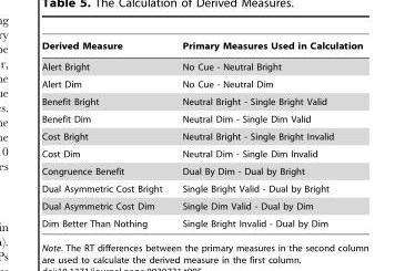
<table><thead><tr><td>Derived Measure</td><td>Primary Measures Used in Calculation</td></tr></thead><tbody><tr><td>Alert Bright</td><td>No Cue - Neutral Bright</td></tr><tr><td>Alert Dim</td><td>No Cue - Neutral Dim</td></tr><tr><td>Benefit Bright</td><td>Neutral Bright - Single Bright Valid</td></tr><tr><td>Benefit Dim</td><td>Neutral Dim - Single Dim Valid</td></tr><tr><td>Cost Bright</td><td>Neutral Bright - Single Bright Invalid</td></tr><tr><td>Cost Dim</td><td>Neutral Dim - Single Dim Invalid</td></tr><tr><td>Congruence Benefit</td><td>Dual By Dim - Dual by Bright</td></tr><tr><td>Dual Asymmetric Cost Bright</td><td>Single Bright Valid - Dual by Bright</td></tr><tr><td>Dual Asymmetric Cost Dim</td><td>Single Dim Valid - Dual by Dim</td></tr><tr><td>Dim Better Than Nothing</td><td>Single Bright Invalid - Dual by Dim</td></tr></tbody></table>